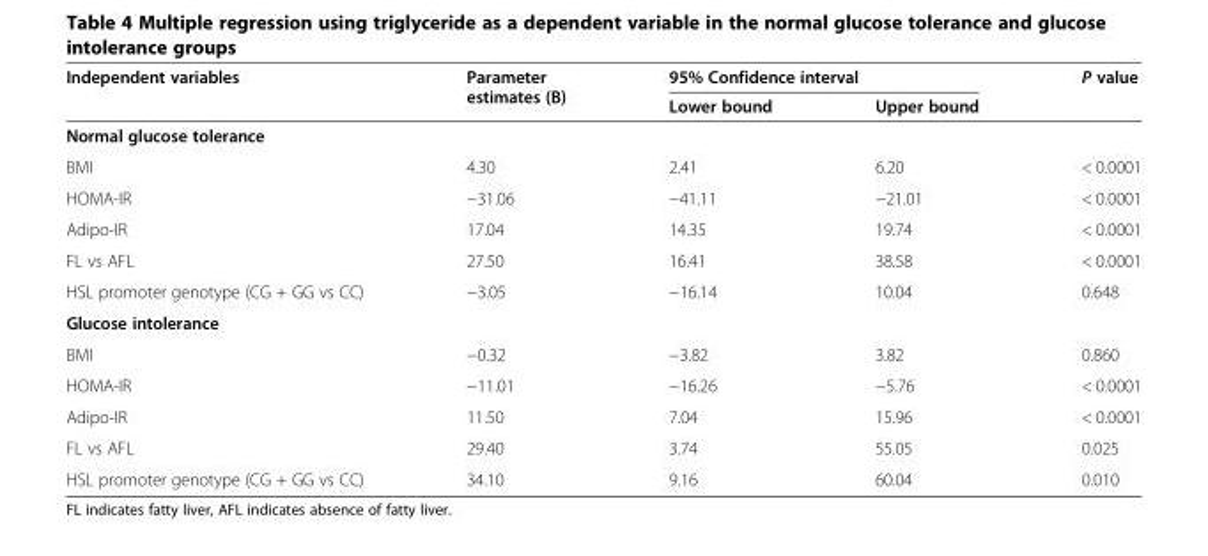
<table><thead><tr><td rowspan="2">Independent variables</td><td rowspan="2">Parameter estimates (B)</td><td colspan="2">95% Confidence interval</td><td rowspan="2">P value</td></tr><tr><td>Lower bound</td><td>Upper bound</td></tr></thead><tbody><tr><td colspan="5">Normal glucose tolerance</td></tr><tr><td>BMI</td><td>4.30</td><td>2.41</td><td>6.20</td><td>&lt; 0.0001</td></tr><tr><td>HOMA-IR</td><td>−31.06</td><td>−41.11</td><td>−21.01</td><td>&lt; 0.0001</td></tr><tr><td>Adipo-IR</td><td>17.04</td><td>14.35</td><td>19.74</td><td>&lt; 0.0001</td></tr><tr><td>FL vs AFL</td><td>27.50</td><td>16.41</td><td>38.58</td><td>&lt; 0.0001</td></tr><tr><td>HSL promoter genotype (CG + GG vs CC)</td><td>−3.05</td><td>−16.14</td><td>10.04</td><td>0.648</td></tr><tr><td colspan="5">Glucose intolerance</td></tr><tr><td>BMI</td><td>−0.32</td><td>−3.82</td><td>3.82</td><td>0.860</td></tr><tr><td>HOMA-IR</td><td>−11.01</td><td>−16.26</td><td>−5.76</td><td>&lt; 0.0001</td></tr><tr><td>Adipo-IR</td><td>11.50</td><td>7.04</td><td>15.96</td><td>&lt; 0.0001</td></tr><tr><td>FL vs AFL</td><td>29.40</td><td>3.74</td><td>55.05</td><td>0.025</td></tr><tr><td>HSL promoter genotype (CG + GG vs CC)</td><td>34.10</td><td>9.16</td><td>60.04</td><td>0.010</td></tr></tbody></table>